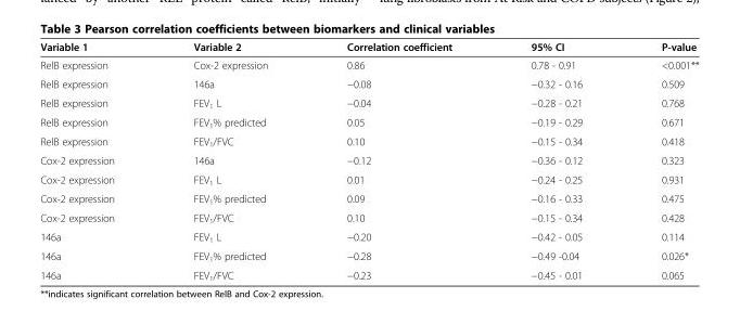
<table><thead><tr><td>Variable 1</td><td>Variable 2</td><td>Correlation coefficient</td><td>95% CI</td><td>P-value</td></tr></thead><tbody><tr><td>RelB expression</td><td>Cox-2 expression</td><td>0.86</td><td>0.78 - 0.91</td><td>&lt;0.001**</td></tr><tr><td>RelB expression</td><td>146a</td><td>−0.08</td><td>−0.32 - 0.16</td><td>0.509</td></tr><tr><td>RelB expression</td><td>FEV<sub>1</sub> L</td><td>−0.04</td><td>−0.28 - 0.21</td><td>0.768</td></tr><tr><td>RelB expression</td><td>FEV<sub>1</sub>% predicted</td><td>0.05</td><td>−0.19 - 0.29</td><td>0.671</td></tr><tr><td>RelB expression</td><td>FEV<sub>1</sub>/FVC</td><td>0.10</td><td>−0.15 - 0.34</td><td>0.418</td></tr><tr><td>Cox-2 expression</td><td>146a</td><td>−0.12</td><td>−0.36 - 0.12</td><td>0.323</td></tr><tr><td>Cox-2 expression</td><td>FEV<sub>1</sub> L</td><td>0.01</td><td>−0.24 - 0.25</td><td>0.931</td></tr><tr><td>Cox-2 expression</td><td>FEV<sub>1</sub>% predicted</td><td>0.09</td><td>−0.16 - 0.33</td><td>0.475</td></tr><tr><td>Cox-2 expression</td><td>FEV<sub>1</sub>/FVC</td><td>0.10</td><td>−0.15 - 0.34</td><td>0.428</td></tr><tr><td>146a</td><td>FEV<sub>1</sub> L</td><td>−0.20</td><td>−0.42 - 0.05</td><td>0.114</td></tr><tr><td>146a</td><td>FEV<sub>1</sub>% predicted</td><td>−0.28</td><td>−0.49 -0.04</td><td>0.026*</td></tr><tr><td>146a</td><td>FEV<sub>1</sub>/FVC</td><td>−0.23</td><td>−0.45 - 0.01</td><td>0.065</td></tr></tbody></table>